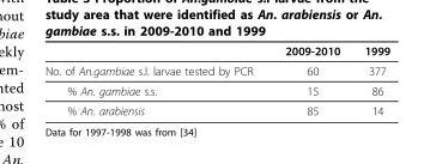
<table><thead><tr><td></td><td>2009-2010</td><td>1999</td></tr></thead><tbody><tr><td>No. of An.gambiae s.l. larvae tested by PCR</td><td>60</td><td>377</td></tr><tr><td>% An. gambiae s.s.</td><td>15</td><td>86</td></tr><tr><td>% An. arabiensis</td><td>85</td><td>14</td></tr></tbody></table>